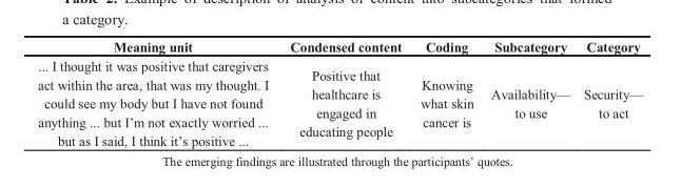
<table><thead><tr><td>Meaning unit</td><td>Condensed content</td><td>Coding</td><td>Subcategory</td><td>Category</td></tr></thead><tbody><tr><td>... I thought it was positive that caregivers act within the area, that was my thought. I could see my body but I have not found anything ... but I’m not exactly worried ... but as I said, I think it’s positive ...</td><td>Positive that healthcare is engaged in educating people</td><td>Knowing what skin cancer is</td><td>Availability— to use</td><td>Security— to act</td></tr></tbody></table>